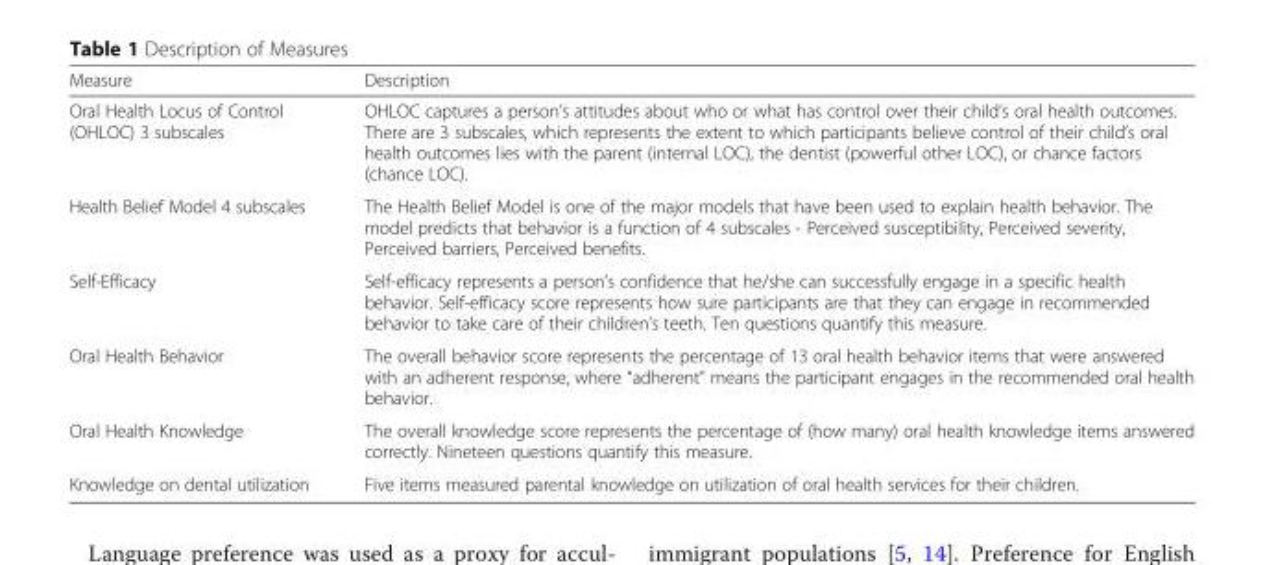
<table><thead><tr><td>Measure</td><td>Description</td></tr></thead><tbody><tr><td>Oral Health Locus of Control (OHLOC) 3 subscales</td><td>OHLOC captures a person’s attitudes about who or what has control over their child’s oral health outcomes. There are 3 subscales, which represents the extent to which participants believe control of their child’s oral health outcomes lies with the parent (internal LOC), the dentist (powerful other LOC), or chance factors (chance LOC).</td></tr><tr><td>Health Belief Model 4 subscales</td><td>The Health Belief Model is one of the major models that have been used to explain health behavior. The model predicts that behavior is a function of 4 subscales - Perceived susceptibility, Perceived severity, Perceived barriers, Perceived benefits.</td></tr><tr><td>Self-Efficacy</td><td>Self-efficacy represents a person’s confidence that he/she can successfully engage in a specific health behavior. Self-efficacy score represents how sure participants are that they can engage in recommended behavior to take care of their children’s teeth. Ten questions quantify this measure.</td></tr><tr><td>Oral Health Behavior</td><td>The overall behavior score represents the percentage of 13 oral health behavior items that were answered with an adherent response, where “adherent” means the participant engages in the recommended oral health behavior.</td></tr><tr><td>Oral Health Knowledge</td><td>The overall knowledge score represents the percentage of (how many) oral health knowledge items answered correctly. Nineteen questions quantify this measure.</td></tr><tr><td>Knowledge on dental utilization</td><td>Five items measured parental knowledge on utilization of oral health services for their children.</td></tr></tbody></table>